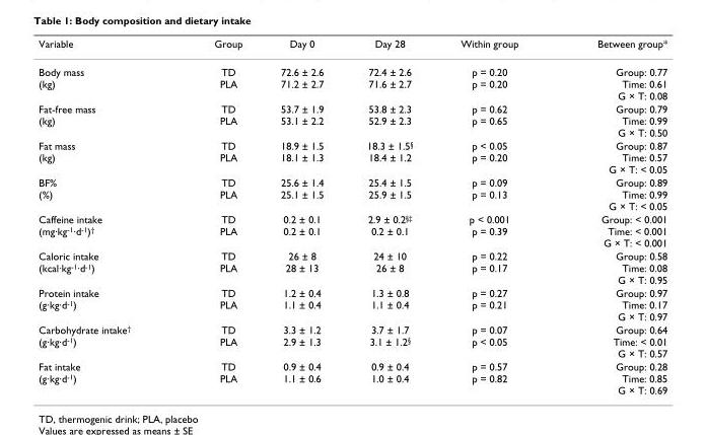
<table><thead><tr><td>Variable</td><td>Group</td><td>Day 0</td><td>Day 28</td><td>Within group</td><td>Between group*</td></tr></thead><tbody><tr><td>Body mass (kg)</td><td>TD PLA</td><td>72.6 ± 2.6 71.2 ± 2.7</td><td>72.4 ± 2.6 71.6 ± 2.7</td><td>p = 0.20 p = 0.20</td><td>Group: 0.77 Time: 0.61 G × T: 0.08</td></tr><tr><td>Fat-free mass (kg)</td><td>TD PLA</td><td>53.7 ± 1.9 53.1 ± 2.2</td><td>53.8 ± 2.3 52.9 ± 2.3</td><td>p = 0.62 p = 0.65</td><td>Group: 0.79 Time: 0.99 G × T: 0.50</td></tr><tr><td>Fat mass (kg)</td><td>TD PLA</td><td>18.9 ± 1.5 18.1 ± 1.3</td><td>18.3 ± 1.5<sup>§</sup> 18.4 ± 1.2</td><td>p &lt; 0.05 p = 0.20</td><td>Group: 0.87 Time: 0.57 G × T: &lt; 0.05</td></tr><tr><td>BF% (%)</td><td>TD PLA</td><td>25.6 ± 1.4 25.1 ± 1.5</td><td>25.4 ± 1.5 25.9 ± 1.5</td><td>p = 0.09 p = 0.13</td><td>Group: 0.89 Time: 0.99 G × T: &lt; 0.05</td></tr><tr><td>Caffeine intake (mg·kg<sup>-1</sup>·d<sup>-1</sup>)<sup>†</sup></td><td>TD PLA</td><td>0.2 ± 0.1 0.2 ± 0.1</td><td>2.9 ± 0.2<sup>§‡</sup> 0.2 ± 0.1</td><td>p &lt; 0.001 p = 0.39</td><td>Group: &lt; 0.001 Time: &lt; 0.001 G × T: &lt; 0.001</td></tr><tr><td>Caloric intake (kcal·kg<sup>-1</sup>·d<sup>-1</sup>)</td><td>TD PLA</td><td>26 ± 8 28 ± 13</td><td>24 ± 10 26 ± 8</td><td>p = 0.22 p = 0.17</td><td>Group: 0.58 Time: 0.08 G × T: 0.95</td></tr><tr><td>Protein intake (g·kg·d<sup>-1</sup>)</td><td>TD PLA</td><td>1.2 ± 0.4 1.1 ± 0.4</td><td>1.3 ± 0.8 1.1 ± 0.4</td><td>p = 0.27 p = 0.21</td><td>Group: 0.97 Time: 0.17 G × T: 0.97</td></tr><tr><td>Carbohydrate intake<sup>†</sup> (g·kg·d<sup>-1</sup>)</td><td>TD PLA</td><td>3.3 ± 1.2 2.9 ± 1.3</td><td>3.7 ± 1.7 3.1 ± 1.2<sup>§</sup></td><td>p = 0.07 p &lt; 0.05</td><td>Group: 0.64 Time: &lt; 0.01 G × T: 0.57</td></tr><tr><td>Fat intake (g·kg·d<sup>-1</sup>)</td><td>TD PLA</td><td>0.9 ± 0.4 1.1 ± 0.6</td><td>0.9 ± 0.4 1.0 ± 0.4</td><td>p = 0.57 p = 0.82</td><td>Group: 0.28 Time: 0.85 G × T: 0.69</td></tr></tbody></table>